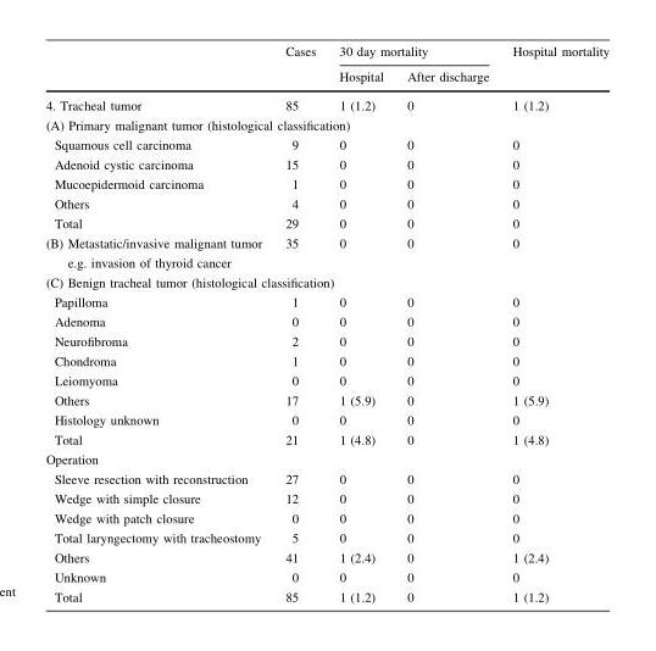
<table><thead><tr><td rowspan="2"></td><td rowspan="2">Cases</td><td colspan="2">30 day mortality</td><td rowspan="2">Hospital mortality</td></tr><tr><td>Hospital</td><td>After discharge</td></tr></thead><tbody><tr><td>4. Tracheal tumor</td><td>85</td><td>1 (1.2)</td><td>0</td><td>1 (1.2)</td></tr><tr><td colspan="5">(A) Primary malignant tumor (histological classification)</td></tr><tr><td>Squamous cell carcinoma</td><td>9</td><td>0</td><td>0</td><td>0</td></tr><tr><td>Adenoid cystic carcinoma</td><td>15</td><td>0</td><td>0</td><td>0</td></tr><tr><td>Mucoepidermoid carcinoma</td><td>1</td><td>0</td><td>0</td><td>0</td></tr><tr><td>Others</td><td>4</td><td>0</td><td>0</td><td>0</td></tr><tr><td>Total</td><td>29</td><td>0</td><td>0</td><td>0</td></tr><tr><td>(B) Metastatic/invasive malignant tumor e.g. invasion of thyroid cancer</td><td>35</td><td>0</td><td>0</td><td>0</td></tr><tr><td colspan="5">(C) Benign tracheal tumor (histological classification)</td></tr><tr><td>Papilloma</td><td>1</td><td>0</td><td>0</td><td>0</td></tr><tr><td>Adenoma</td><td>0</td><td>0</td><td>0</td><td>0</td></tr><tr><td>Neurofibroma</td><td>2</td><td>0</td><td>0</td><td>0</td></tr><tr><td>Chondroma</td><td>1</td><td>0</td><td>0</td><td>0</td></tr><tr><td>Leiomyoma</td><td>0</td><td>0</td><td>0</td><td>0</td></tr><tr><td>Others</td><td>17</td><td>1 (5.9)</td><td>0</td><td>1 (5.9)</td></tr><tr><td>Histology unknown</td><td>0</td><td>0</td><td>0</td><td>0</td></tr><tr><td>Total</td><td>21</td><td>1 (4.8)</td><td>0</td><td>1 (4.8)</td></tr><tr><td colspan="5">Operation</td></tr><tr><td>Sleeve resection with reconstruction</td><td>27</td><td>0</td><td>0</td><td>0</td></tr><tr><td>Wedge with simple closure</td><td>12</td><td>0</td><td>0</td><td>0</td></tr><tr><td>Wedge with patch closure</td><td>0</td><td>0</td><td>0</td><td>0</td></tr><tr><td>Total laryngectomy with tracheostomy</td><td>5</td><td>0</td><td>0</td><td>0</td></tr><tr><td>Others</td><td>41</td><td>1 (2.4)</td><td>0</td><td>1 (2.4)</td></tr><tr><td>Unknown</td><td>0</td><td>0</td><td>0</td><td>0</td></tr><tr><td>Total</td><td>85</td><td>1 (1.2)</td><td>0</td><td>1 (1.2)</td></tr></tbody></table>